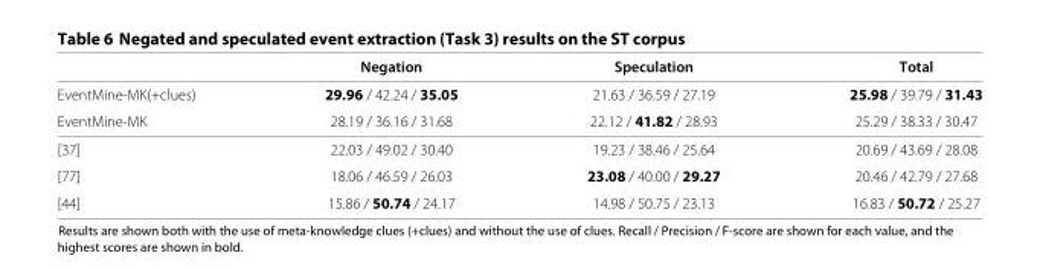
<table><thead><tr><td></td><td>Negation</td><td>Speculation</td><td>Total</td></tr></thead><tbody><tr><td>EventMine-MK(+clues)</td><td>29.96 / 42.24 / 35.05</td><td>21.63 / 36.59 / 27.19</td><td>25.98 / 39.79 / 31.43</td></tr><tr><td>EventMine-MK</td><td>28.19 / 36.16 / 31.68</td><td>22.12 / 41.82 / 28.93</td><td>25.29 / 38.33 / 30.47</td></tr><tr><td>[37]</td><td>22.03 / 49.02 / 30.40</td><td>19.23 / 38.46 / 25.64</td><td>20.69 / 43.69 / 28.08</td></tr><tr><td>[77]</td><td>18.06 / 46.59 / 26.03</td><td>23.08 / 40.00 / 29.27</td><td>20.46 / 42.79 / 27.68</td></tr><tr><td>[44]</td><td>15.86 / 50.74 / 24.17</td><td>14.98 / 50.75 / 23.13</td><td>16.83 / 50.72 / 25.27</td></tr></tbody></table>